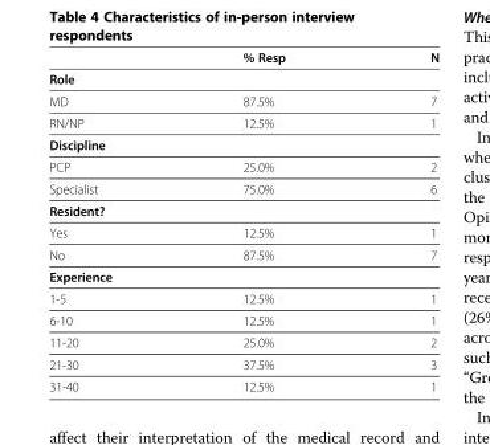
<table><thead><tr><td></td><td>% Resp</td><td>N</td></tr></thead><tbody><tr><td colspan="3">Role</td></tr><tr><td>MD</td><td>87.5%</td><td>7</td></tr><tr><td>RN/NP</td><td>12.5%</td><td>1</td></tr><tr><td colspan="3">Discipline</td></tr><tr><td>PCP</td><td>25.0%</td><td>2</td></tr><tr><td>Specialist</td><td>75.0%</td><td>6</td></tr><tr><td colspan="3">Resident?</td></tr><tr><td>Yes</td><td>12.5%</td><td>1</td></tr><tr><td>No</td><td>87.5%</td><td>7</td></tr><tr><td colspan="3">Experience</td></tr><tr><td>1-5</td><td>12.5%</td><td>1</td></tr><tr><td>6-10</td><td>12.5%</td><td>1</td></tr><tr><td>11-20</td><td>25.0%</td><td>2</td></tr><tr><td>21-30</td><td>37.5%</td><td>3</td></tr><tr><td>31-40</td><td>12.5%</td><td>1</td></tr></tbody></table>